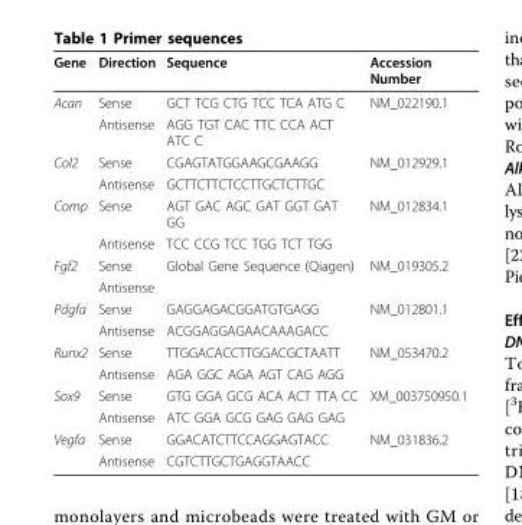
<table><thead><tr><td>Gene</td><td>Direction</td><td>Sequence</td><td>Accession Number</td></tr></thead><tbody><tr><td rowspan="2">Acan</td><td>Sense</td><td>GCT TCG CTG TCC TCA ATG C</td><td>NM_022190.1</td></tr><tr><td>Antisense</td><td>AGG TGT CAC TTC CCA ACT ATC C</td><td></td></tr><tr><td rowspan="2">Col2</td><td>Sense</td><td>CGAGTATGGAAGCGAAGG</td><td>NM_012929.1</td></tr><tr><td>Antisense</td><td>GCTTCTTCTCCTTGCTCTTGC</td><td></td></tr><tr><td rowspan="2">Comp</td><td>Sense</td><td>AGT GAC AGC GAT GGT GAT GG</td><td>NM_012834.1</td></tr><tr><td>Antisense</td><td>TCC CCG TCC TGG TCT TGG</td><td></td></tr><tr><td rowspan="2">Fgf2</td><td>Sense</td><td>Global Gene Sequence (Qiagen)</td><td>NM_019305.2</td></tr><tr><td>Antisense</td><td></td><td></td></tr><tr><td rowspan="2">Pdgfa</td><td>Sense</td><td>GAGGAGACGGATGTGAGG</td><td>NM_012801.1</td></tr><tr><td>Antisense</td><td>ACGGAGGAGAACAAAGACC</td><td></td></tr><tr><td rowspan="2">Runx2</td><td>Sense</td><td>TTGGACACCTTGGACGCTAATT</td><td>NM_053470.2</td></tr><tr><td>Antisense</td><td>AGA GGC AGA AGT CAG AGG</td><td></td></tr><tr><td rowspan="2">Sox9</td><td>Sense</td><td>GTG GGA GCG ACA ACT TTA CC</td><td>XM_003750950.1</td></tr><tr><td>Antisense</td><td>ATC GGA GCG GAG GAG GAG</td><td></td></tr><tr><td rowspan="2">Vegfa</td><td>Sense</td><td>GGACATCTTCCAGGAGTACC</td><td>NM_031836.2</td></tr><tr><td>Antisense</td><td>CGTCTTGCTGAGGTAACC</td><td></td></tr></tbody></table>